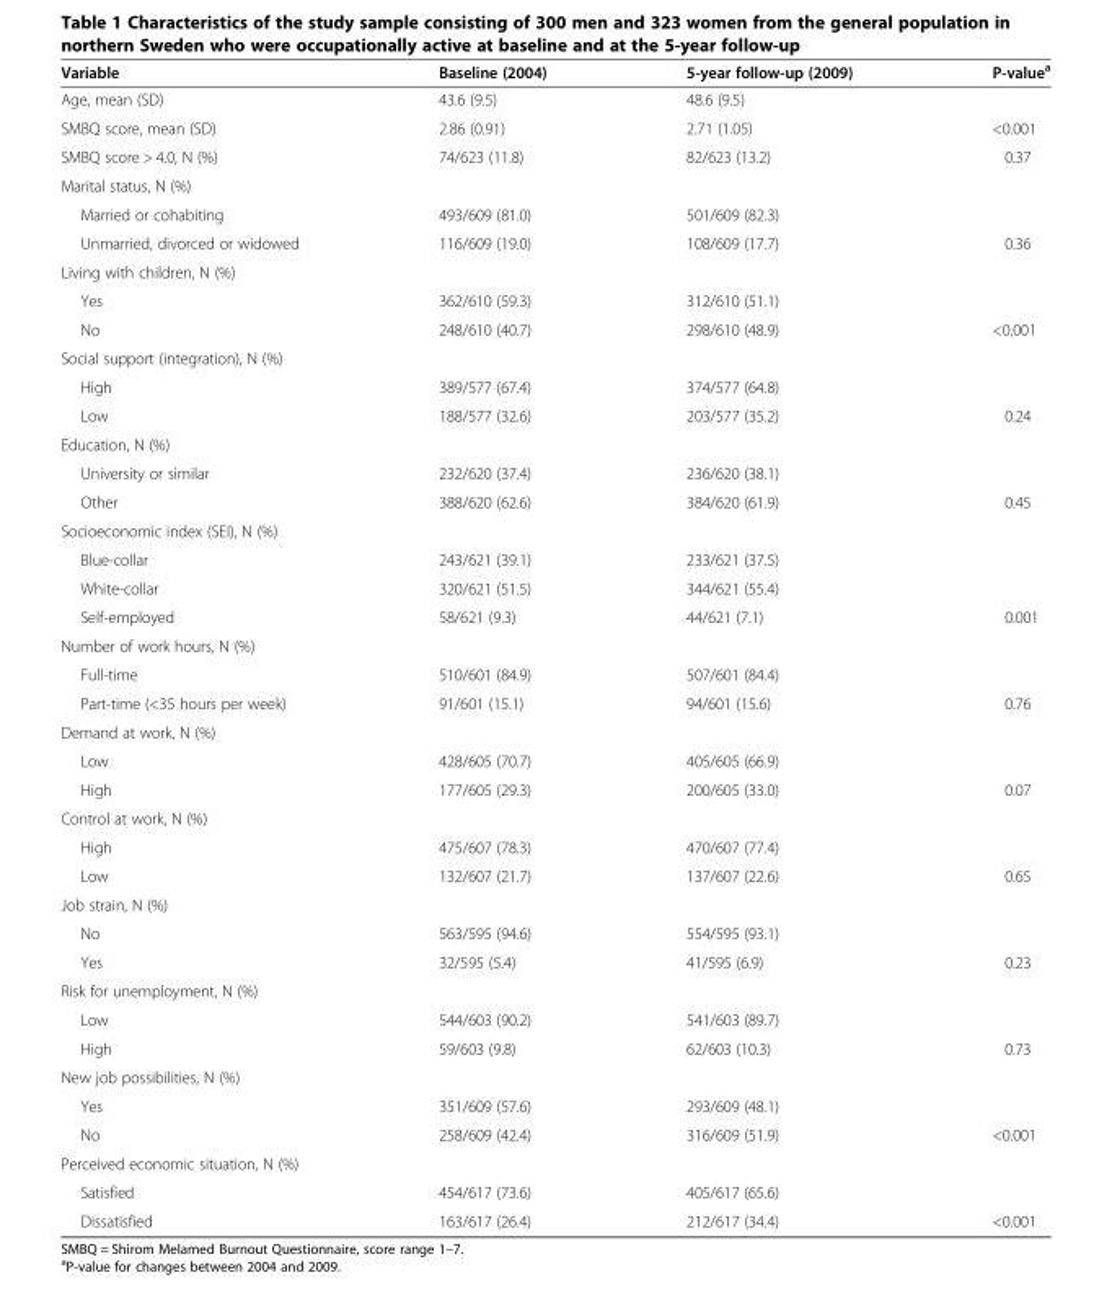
<table><thead><tr><td>Variable</td><td>Baseline (2004)</td><td>5-year follow-up (2009)</td><td>P-value<sup>a</sup></td></tr></thead><tbody><tr><td>Age, mean (SD)</td><td>43.6 (9.5)</td><td>48.6 (9.5)</td><td></td></tr><tr><td>SMBQ score, mean (SD)</td><td>2.86 (0.91)</td><td>2.71 (1.05)</td><td>&lt;0.001</td></tr><tr><td>SMBQ score &gt; 4.0, N (%)</td><td>74/623 (11.8)</td><td>82/623 (13.2)</td><td>0.37</td></tr><tr><td colspan="4">Marital status, N (%)</td></tr><tr><td>Married or cohabiting</td><td>493/609 (81.0)</td><td>501/609 (82.3)</td><td></td></tr><tr><td>Unmarried, divorced or widowed</td><td>116/609 (19.0)</td><td>108/609 (17.7)</td><td>0.36</td></tr><tr><td colspan="4">Living with children, N (%)</td></tr><tr><td>Yes</td><td>362/610 (59.3)</td><td>312/610 (51.1)</td><td></td></tr><tr><td>No</td><td>248/610 (40.7)</td><td>298/610 (48.9)</td><td>&lt;0.001</td></tr><tr><td colspan="4">Social support (integration), N (%)</td></tr><tr><td>High</td><td>389/577 (67.4)</td><td>374/577 (64.8)</td><td></td></tr><tr><td>Low</td><td>188/577 (32.6)</td><td>203/577 (35.2)</td><td>0.24</td></tr><tr><td colspan="4">Education, N (%)</td></tr><tr><td>University or similar</td><td>232/620 (37.4)</td><td>236/620 (38.1)</td><td></td></tr><tr><td>Other</td><td>388/620 (62.6)</td><td>384/620 (61.9)</td><td>0.45</td></tr><tr><td colspan="4">Socioeconomic index (SEI), N (%)</td></tr><tr><td>Blue-collar</td><td>243/621 (39.1)</td><td>233/621 (37.5)</td><td></td></tr><tr><td>White-collar</td><td>320/621 (51.5)</td><td>344/621 (55.4)</td><td></td></tr><tr><td>Self-employed</td><td>58/621 (9.3)</td><td>44/621 (7.1)</td><td>0.001</td></tr><tr><td colspan="4">Number of work hours, N (%)</td></tr><tr><td>Full-time</td><td>510/601 (84.9)</td><td>507/601 (84.4)</td><td></td></tr><tr><td>Part-time (&lt;35 hours per week)</td><td>91/601 (15.1)</td><td>94/601 (15.6)</td><td>0.76</td></tr><tr><td colspan="4">Demand at work, N (%)</td></tr><tr><td>Low</td><td>428/605 (70.7)</td><td>405/605 (66.9)</td><td></td></tr><tr><td>High</td><td>177/605 (29.3)</td><td>200/605 (33.0)</td><td>0.07</td></tr><tr><td colspan="4">Control at work, N (%)</td></tr><tr><td>High</td><td>475/607 (78.3)</td><td>470/607 (77.4)</td><td></td></tr><tr><td>Low</td><td>132/607 (21.7)</td><td>137/607 (22.6)</td><td>0.65</td></tr><tr><td colspan="4">Job strain, N (%)</td></tr><tr><td>No</td><td>563/595 (94.6)</td><td>554/595 (93.1)</td><td></td></tr><tr><td>Yes</td><td>32/595 (5.4)</td><td>41/595 (6.9)</td><td>0.23</td></tr><tr><td colspan="4">Risk for unemployment, N (%)</td></tr><tr><td>Low</td><td>544/603 (90.2)</td><td>541/603 (89.7)</td><td></td></tr><tr><td>High</td><td>59/603 (9.8)</td><td>62/603 (10.3)</td><td>0.73</td></tr><tr><td colspan="4">New job possibilities, N (%)</td></tr><tr><td>Yes</td><td>351/609 (57.6)</td><td>293/609 (48.1)</td><td></td></tr><tr><td>No</td><td>258/609 (42.4)</td><td>316/609 (51.9)</td><td>&lt;0.001</td></tr><tr><td colspan="4">Perceived economic situation, N (%)</td></tr><tr><td>Satisfied</td><td>454/617 (73.6)</td><td>405/617 (65.6)</td><td></td></tr><tr><td>Dissatisfied</td><td>163/617 (26.4)</td><td>212/617 (34.4)</td><td>&lt;0.001</td></tr></tbody></table>